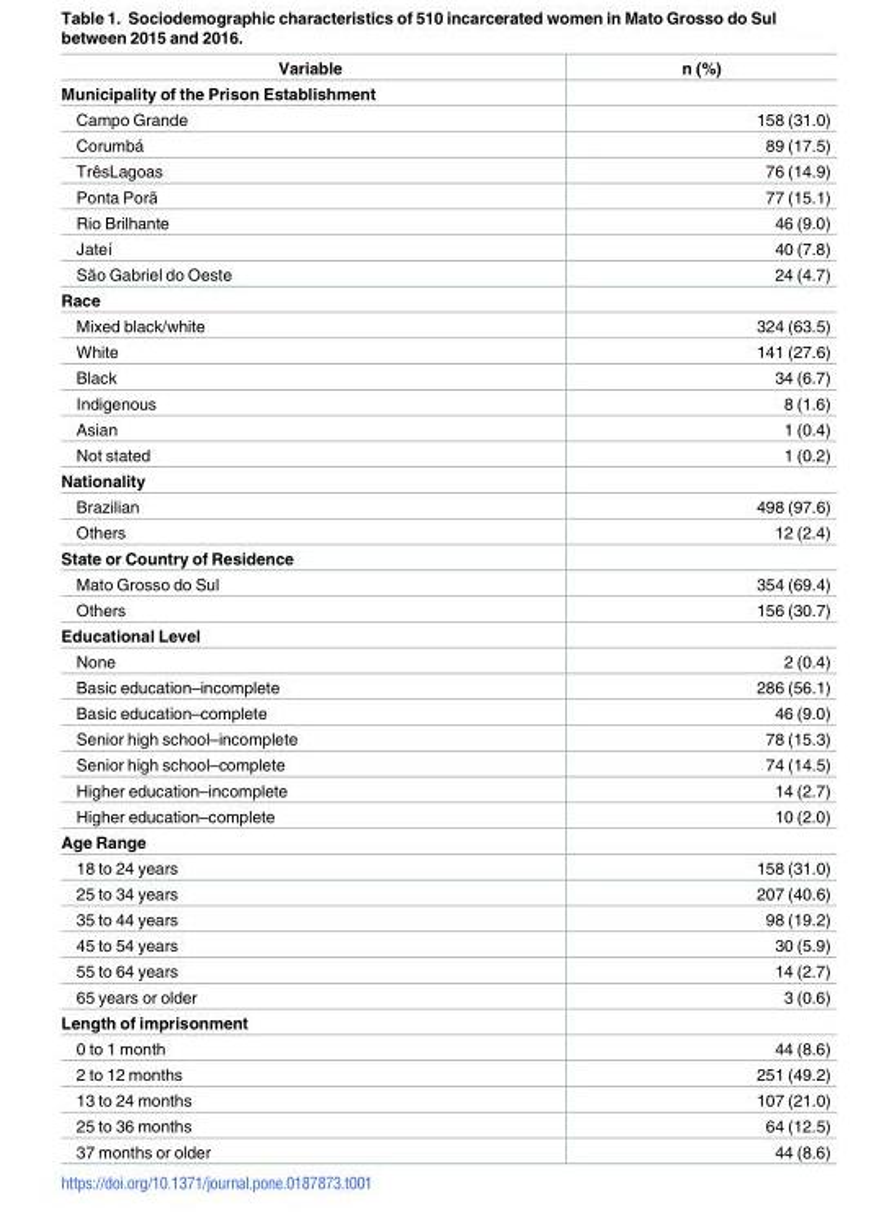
<table><thead><tr><td>Variable</td><td>n (%)</td></tr></thead><tbody><tr><td colspan="2">Municipality of the Prison Establishment</td></tr><tr><td>Campo Grande</td><td>158 (31.0)</td></tr><tr><td>Corumba´</td><td>89 (17.5)</td></tr><tr><td>TrêsLagoas</td><td>76 (14.9)</td></tr><tr><td>Ponta Porã</td><td>77 (15.1)</td></tr><tr><td>Rio Brilhante</td><td>46 (9.0)</td></tr><tr><td>Jateı´</td><td>40 (7.8)</td></tr><tr><td>São Gabriel do Oeste</td><td>24 (4.7)</td></tr><tr><td colspan="2">Race</td></tr><tr><td>Mixed black/white</td><td>324 (63.5)</td></tr><tr><td>White</td><td>141 (27.6)</td></tr><tr><td>Black</td><td>34 (6.7)</td></tr><tr><td>Indigenous</td><td>8 (1.6)</td></tr><tr><td>Asian</td><td>1 (0.4)</td></tr><tr><td>Not stated</td><td>1 (0.2)</td></tr><tr><td colspan="2">Nationality</td></tr><tr><td>Brazilian</td><td>498 (97.6)</td></tr><tr><td>Others</td><td>12 (2.4)</td></tr><tr><td colspan="2">State or Country of Residence</td></tr><tr><td>Mato Grosso do Sul</td><td>354 (69.4)</td></tr><tr><td>Others</td><td>156 (30.7)</td></tr><tr><td colspan="2">Educational Level</td></tr><tr><td>None</td><td>2 (0.4)</td></tr><tr><td>Basic education–incomplete</td><td>286 (56.1)</td></tr><tr><td>Basic education–complete</td><td>46 (9.0)</td></tr><tr><td>Senior high school–incomplete</td><td>78 (15.3)</td></tr><tr><td>Senior high school–complete</td><td>74 (14.5)</td></tr><tr><td>Higher education–incomplete</td><td>14 (2.7)</td></tr><tr><td>Higher education–complete</td><td>10 (2.0)</td></tr><tr><td colspan="2">Age Range</td></tr><tr><td>18 to 24 years</td><td>158 (31.0)</td></tr><tr><td>25 to 34 years</td><td>207 (40.6)</td></tr><tr><td>35 to 44 years</td><td>98 (19.2)</td></tr><tr><td>45 to 54 years</td><td>30 (5.9)</td></tr><tr><td>55 to 64 years</td><td>14 (2.7)</td></tr><tr><td>65 years or older</td><td>3 (0.6)</td></tr><tr><td colspan="2">Length of imprisonment</td></tr><tr><td>0 to 1 month</td><td>44 (8.6)</td></tr><tr><td>2 to 12 months</td><td>251 (49.2)</td></tr><tr><td>13 to 24 months</td><td>107 (21.0)</td></tr><tr><td>25 to 36 months</td><td>64 (12.5)</td></tr><tr><td>37 months or older</td><td>44 (8.6)</td></tr></tbody></table>